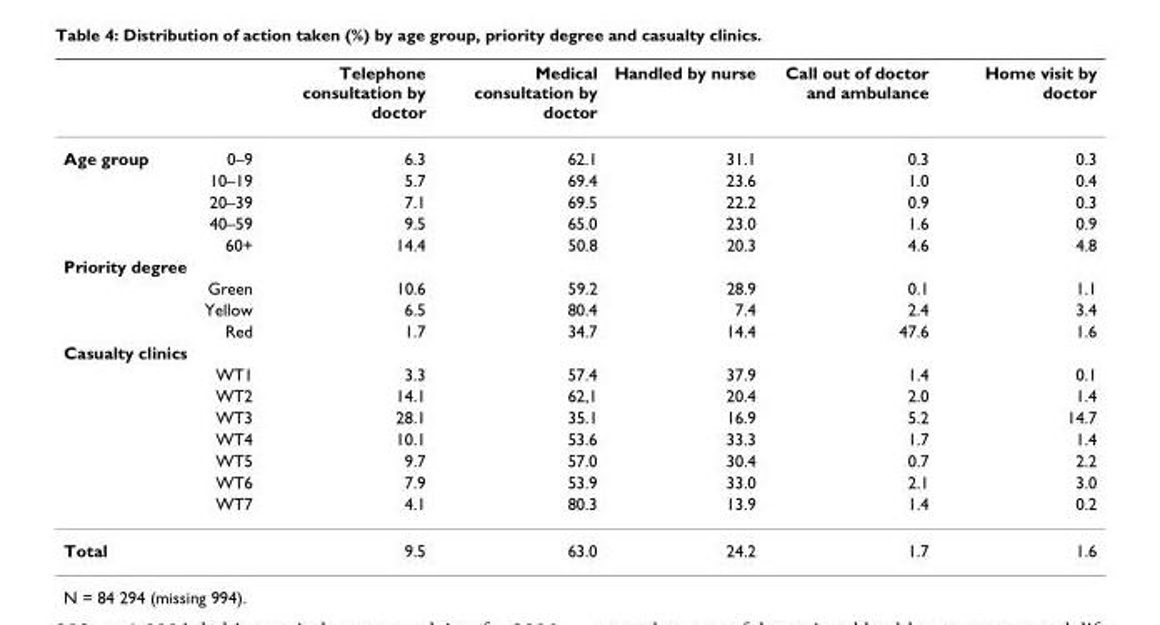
<table><thead><tr><td></td><td></td><td>Telephone consultation by doctor</td><td>Medical consultation by doctor</td><td>Handled by nurse</td><td>Call out of doctor and ambulance</td><td>Home visit by doctor</td></tr></thead><tbody><tr><td rowspan="5">Age group</td><td>0–9</td><td>6.3</td><td>62.1</td><td>31.1</td><td>0.3</td><td>0.3</td></tr><tr><td>10–19</td><td>5.7</td><td>69.4</td><td>23.6</td><td>1.0</td><td>0.4</td></tr><tr><td>20–39</td><td>7.1</td><td>69.5</td><td>22.2</td><td>0.9</td><td>0.3</td></tr><tr><td>40–59</td><td>9.5</td><td>65.0</td><td>23.0</td><td>1.6</td><td>0.9</td></tr><tr><td>60+</td><td>14.4</td><td>50.8</td><td>20.3</td><td>4.6</td><td>4.8</td></tr><tr><td colspan="7">Priority degree</td></tr><tr><td></td><td>Green</td><td>10.6</td><td>59.2</td><td>28.9</td><td>0.1</td><td>1.1</td></tr><tr><td></td><td>Yellow</td><td>6.5</td><td>80.4</td><td>7.4</td><td>2.4</td><td>3.4</td></tr><tr><td></td><td>Red</td><td>1.7</td><td>34.7</td><td>14.4</td><td>47.6</td><td>1.6</td></tr><tr><td colspan="7">Casualty clinics</td></tr><tr><td></td><td>WT1</td><td>3.3</td><td>57.4</td><td>37.9</td><td>1.4</td><td>0.1</td></tr><tr><td></td><td>WT2</td><td>14.1</td><td>62,1</td><td>20.4</td><td>2.0</td><td>1.4</td></tr><tr><td></td><td>WT3</td><td>28.1</td><td>35.1</td><td>16.9</td><td>5.2</td><td>14.7</td></tr><tr><td></td><td>WT4</td><td>10.1</td><td>53.6</td><td>33.3</td><td>1.7</td><td>1.4</td></tr><tr><td></td><td>WT5</td><td>9.7</td><td>57.0</td><td>30.4</td><td>0.7</td><td>2.2</td></tr><tr><td></td><td>WT6</td><td>7.9</td><td>53.9</td><td>33.0</td><td>2.1</td><td>3.0</td></tr><tr><td></td><td>WT7</td><td>4.1</td><td>80.3</td><td>13.9</td><td>1.4</td><td>0.2</td></tr><tr><td>Total</td><td></td><td>9.5</td><td>63.0</td><td>24.2</td><td>1.7</td><td>1.6</td></tr></tbody></table>